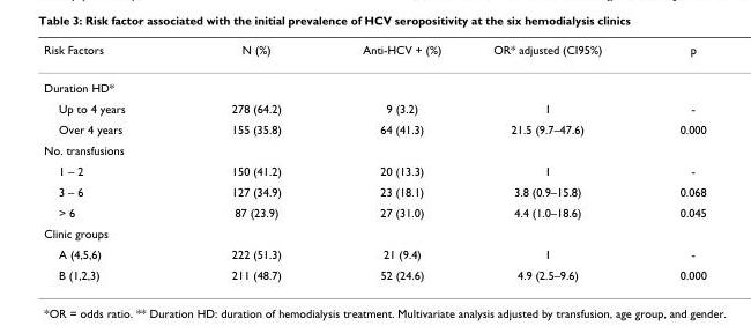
<table><thead><tr><td>Risk Factors</td><td>N (%)</td><td>Anti-HCV + (%)</td><td>OR* adjusted (CI95%)</td><td>p</td></tr></thead><tbody><tr><td colspan="5">Duration HD*</td></tr><tr><td>Up to 4 years</td><td>278 (64.2)</td><td>9 (3.2)</td><td>1</td><td>-</td></tr><tr><td>Over 4 years</td><td>155 (35.8)</td><td>64 (41.3)</td><td>21.5 (9.7–47.6)</td><td>0.000</td></tr><tr><td colspan="5">No. transfusions</td></tr><tr><td>1 – 2</td><td>150 (41.2)</td><td>20 (13.3)</td><td>1</td><td>-</td></tr><tr><td>3 – 6</td><td>127 (34.9)</td><td>23 (18.1)</td><td>3.8 (0.9–15.8)</td><td>0.068</td></tr><tr><td>&gt; 6</td><td>87 (23.9)</td><td>27 (31.0)</td><td>4.4 (1.0–18.6)</td><td>0.045</td></tr><tr><td colspan="5">Clinic groups</td></tr><tr><td>A (4,5,6)</td><td>222 (51.3)</td><td>21 (9.4)</td><td>1</td><td>-</td></tr><tr><td>B (1,2,3)</td><td>211 (48.7)</td><td>52 (24.6)</td><td>4.9 (2.5–9.6)</td><td>0.000</td></tr></tbody></table>